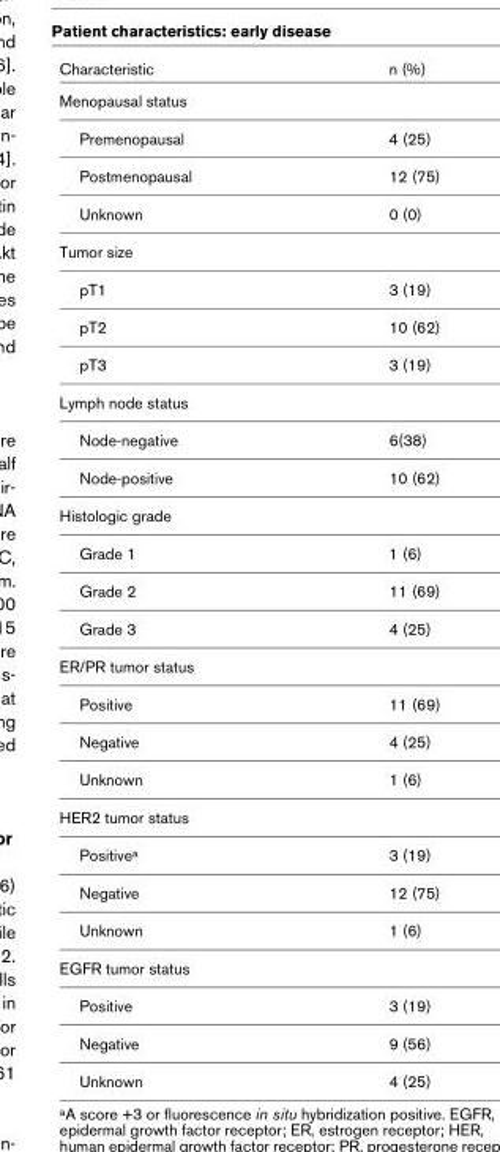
<table><thead><tr><td>Characteristic</td><td>n (%)</td></tr></thead><tbody><tr><td colspan="2">Menopausal status</td></tr><tr><td>Premenopausal</td><td>4 (25)</td></tr><tr><td>Postmenopausal</td><td>12 (75)</td></tr><tr><td>Unknown</td><td>0 (0)</td></tr><tr><td colspan="2">Tumor size</td></tr><tr><td>pT1</td><td>3 (19)</td></tr><tr><td>pT2</td><td>10 (62)</td></tr><tr><td>pT3</td><td>3 (19)</td></tr><tr><td colspan="2">Lymph node status</td></tr><tr><td>Node-negative</td><td>6(38)</td></tr><tr><td>Node-positive</td><td>10 (62)</td></tr><tr><td colspan="2">Histologic grade</td></tr><tr><td>Grade 1</td><td>1 (6)</td></tr><tr><td>Grade 2</td><td>11 (69)</td></tr><tr><td>Grade 3</td><td>4 (25)</td></tr><tr><td colspan="2">ER/PR tumor status</td></tr><tr><td>Positive</td><td>11 (69)</td></tr><tr><td>Negative</td><td>4 (25)</td></tr><tr><td>Unknown</td><td>1 (6)</td></tr><tr><td colspan="2">HER2 tumor status</td></tr><tr><td>Positivea</td><td>3 (19)</td></tr><tr><td>Negative</td><td>12 (75)</td></tr><tr><td>Unknown</td><td>1 (6)</td></tr><tr><td colspan="2">EGFR tumor status</td></tr><tr><td>Positive</td><td>3 (19)</td></tr><tr><td>Negative</td><td>9 (56)</td></tr><tr><td>Unknown</td><td>4 (25)</td></tr></tbody></table>